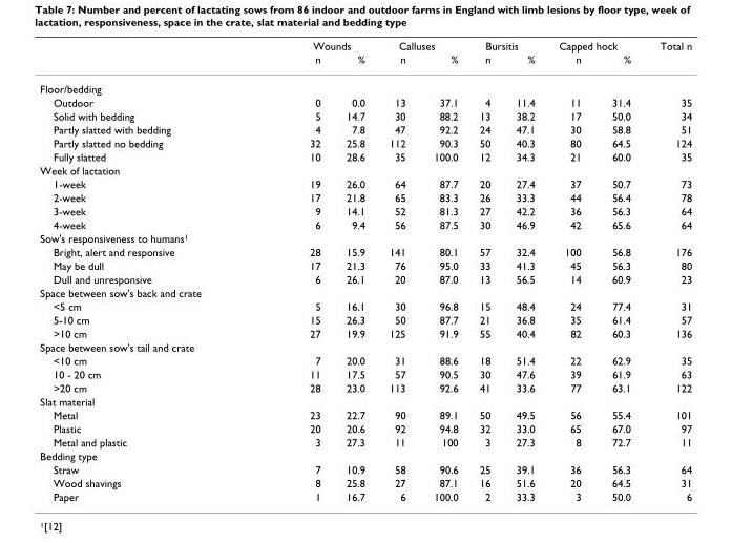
<table><thead><tr><td rowspan="2"></td><td colspan="2">Wounds</td><td colspan="2">Calluses</td><td colspan="2">Bursitis</td><td colspan="2">Capped hock</td><td rowspan="2">Total n</td></tr><tr><td>n</td><td>%</td><td>n</td><td>%</td><td>n</td><td>%</td><td>n</td><td>%</td></tr></thead><tbody><tr><td colspan="10">Floor/bedding</td></tr><tr><td>Outdoor</td><td>0</td><td>0.0</td><td>13</td><td>37.1</td><td>4</td><td>11.4</td><td>11</td><td>31.4</td><td>35</td></tr><tr><td>Solid with bedding</td><td>5</td><td>14.7</td><td>30</td><td>88.2</td><td>13</td><td>38.2</td><td>17</td><td>50.0</td><td>34</td></tr><tr><td>Partly slatted with bedding</td><td>4</td><td>7.8</td><td>47</td><td>92.2</td><td>24</td><td>47.1</td><td>30</td><td>58.8</td><td>51</td></tr><tr><td>Partly slatted no bedding</td><td>32</td><td>25.8</td><td>112</td><td>90.3</td><td>50</td><td>40.3</td><td>80</td><td>64.5</td><td>124</td></tr><tr><td>Fully slatted</td><td>10</td><td>28.6</td><td>35</td><td>100.0</td><td>12</td><td>34.3</td><td>21</td><td>60.0</td><td>35</td></tr><tr><td colspan="10">Week of lactation</td></tr><tr><td>1-week</td><td>19</td><td>26.0</td><td>64</td><td>87.7</td><td>20</td><td>27.4</td><td>37</td><td>50.7</td><td>73</td></tr><tr><td>2-week</td><td>17</td><td>21.8</td><td>65</td><td>83.3</td><td>26</td><td>33.3</td><td>44</td><td>56.4</td><td>78</td></tr><tr><td>3-week</td><td>9</td><td>14.1</td><td>52</td><td>81.3</td><td>27</td><td>42.2</td><td>36</td><td>56.3</td><td>64</td></tr><tr><td>4-week</td><td>6</td><td>9.4</td><td>56</td><td>87.5</td><td>30</td><td>46.9</td><td>42</td><td>65.6</td><td>64</td></tr><tr><td colspan="10">Sow&#x27;s responsiveness to humans<sup>1</sup></td></tr><tr><td>Bright, alert and responsive</td><td>28</td><td>15.9</td><td>141</td><td>80.1</td><td>57</td><td>32.4</td><td>100</td><td>56.8</td><td>176</td></tr><tr><td>May be dull</td><td>17</td><td>21.3</td><td>76</td><td>95.0</td><td>33</td><td>41.3</td><td>45</td><td>56.3</td><td>80</td></tr><tr><td>Dull and unresponsive</td><td>6</td><td>26.1</td><td>20</td><td>87.0</td><td>13</td><td>56.5</td><td>14</td><td>60.9</td><td>23</td></tr><tr><td colspan="10">Space between sow&#x27;s back and crate</td></tr><tr><td>&lt;5 cm</td><td>5</td><td>16.1</td><td>30</td><td>96.8</td><td>15</td><td>48.4</td><td>24</td><td>77.4</td><td>31</td></tr><tr><td>5-10 cm</td><td>15</td><td>26.3</td><td>50</td><td>87.7</td><td>21</td><td>36.8</td><td>35</td><td>61.4</td><td>57</td></tr><tr><td>&gt;10 cm</td><td>27</td><td>19.9</td><td>125</td><td>91.9</td><td>55</td><td>40.4</td><td>82</td><td>60.3</td><td>136</td></tr><tr><td colspan="10">Space between sow&#x27;s tail and crate</td></tr><tr><td>&lt;10 cm</td><td>7</td><td>20.0</td><td>31</td><td>88.6</td><td>18</td><td>51.4</td><td>22</td><td>62.9</td><td>35</td></tr><tr><td>10 - 20 cm</td><td>11</td><td>17.5</td><td>57</td><td>90.5</td><td>30</td><td>47.6</td><td>39</td><td>61.9</td><td>63</td></tr><tr><td>&gt;20 cm</td><td>28</td><td>23.0</td><td>113</td><td>92.6</td><td>41</td><td>33.6</td><td>77</td><td>63.1</td><td>122</td></tr><tr><td colspan="10">Slat material</td></tr><tr><td>Metal</td><td>23</td><td>22.7</td><td>90</td><td>89.1</td><td>50</td><td>49.5</td><td>56</td><td>55.4</td><td>101</td></tr><tr><td>Plastic</td><td>20</td><td>20.6</td><td>92</td><td>94.8</td><td>32</td><td>33.0</td><td>65</td><td>67.0</td><td>97</td></tr><tr><td>Metal and plastic</td><td>3</td><td>27.3</td><td>11</td><td>100</td><td>3</td><td>27.3</td><td>8</td><td>72.7</td><td>11</td></tr><tr><td colspan="10">Bedding type</td></tr><tr><td>Straw</td><td>7</td><td>10.9</td><td>58</td><td>90.6</td><td>25</td><td>39.1</td><td>36</td><td>56.3</td><td>64</td></tr><tr><td>Wood shavings</td><td>8</td><td>25.8</td><td>27</td><td>87.1</td><td>16</td><td>51.6</td><td>20</td><td>64.5</td><td>31</td></tr><tr><td>Paper</td><td>1</td><td>16.7</td><td>6</td><td>100.0</td><td>2</td><td>33.3</td><td>3</td><td>50.0</td><td>6</td></tr></tbody></table>